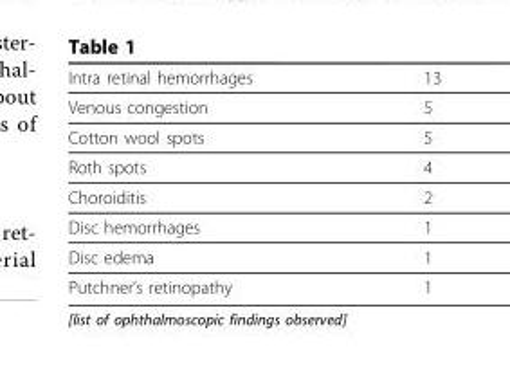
<table><tbody><tr><td>Intra retinal hemorrhages</td><td>13</td></tr><tr><td>Venous congestion</td><td>5</td></tr><tr><td>Cotton wool spots</td><td>5</td></tr><tr><td>Roth spots</td><td>4</td></tr><tr><td>Choroiditis</td><td>2</td></tr><tr><td>Disc hemorrhages</td><td>1</td></tr><tr><td>Disc edema</td><td>1</td></tr><tr><td>Putchner’s retinopathy</td><td>1</td></tr></tbody></table>